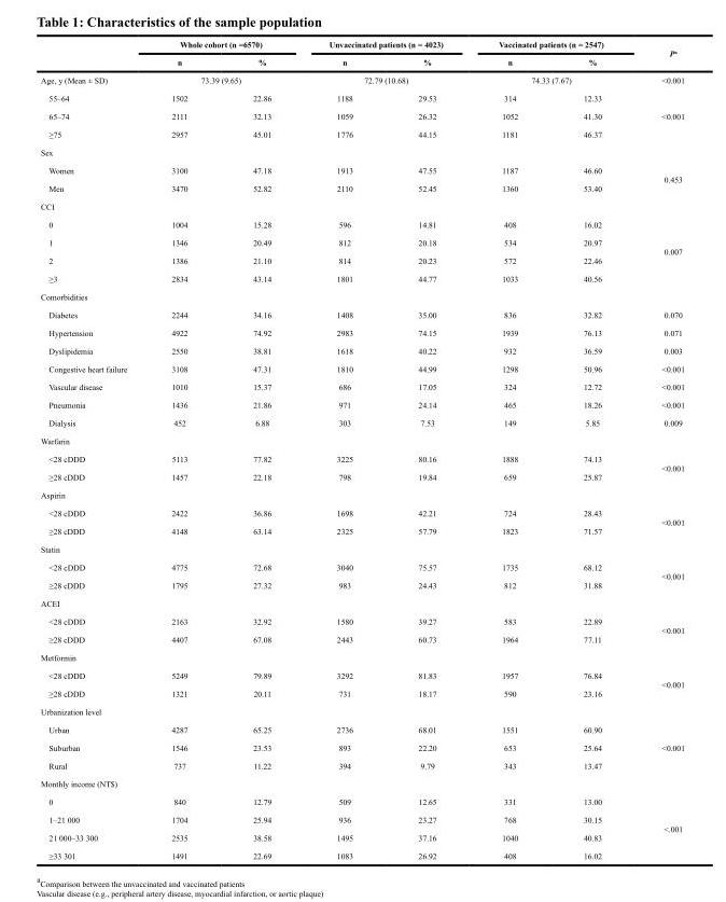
<table><thead><tr><td rowspan="2"></td><td colspan="2">Whole cohort (n =6570)</td><td colspan="2">Unvaccinated patients (n = 4023)</td><td colspan="2">Vaccinated patients (n = 2547)</td><td rowspan="2">P<sup>a</sup></td></tr><tr><td>n</td><td>%</td><td>n</td><td>%</td><td>n</td><td>%</td></tr></thead><tbody><tr><td>Age, y (Mean ± SD)</td><td colspan="2">73.39 (9.65)</td><td colspan="2">72.79 (10.68)</td><td colspan="2">74.33 (7.67)</td><td>&lt;0.001</td></tr><tr><td>55–64</td><td>1502</td><td>22.86</td><td>1188</td><td>29.53</td><td>314</td><td>12.33</td><td rowspan="3">&lt;0.001</td></tr><tr><td>65–74</td><td>2111</td><td>32.13</td><td>1059</td><td>26.32</td><td>1052</td><td>41.30</td></tr><tr><td>≥75</td><td>2957</td><td>45.01</td><td>1776</td><td>44.15</td><td>1181</td><td>46.37</td></tr><tr><td colspan="8">Sex</td></tr><tr><td>Women</td><td>3100</td><td>47.18</td><td>1913</td><td>47.55</td><td>1187</td><td>46.60</td><td rowspan="2">0.453</td></tr><tr><td>Men</td><td>3470</td><td>52.82</td><td>2110</td><td>52.45</td><td>1360</td><td>53.40</td></tr><tr><td colspan="8">CCI</td></tr><tr><td>0</td><td>1004</td><td>15.28</td><td>596</td><td>14.81</td><td>408</td><td>16.02</td><td rowspan="4">0.007</td></tr><tr><td>1</td><td>1346</td><td>20.49</td><td>812</td><td>20.18</td><td>534</td><td>20.97</td></tr><tr><td>2</td><td>1386</td><td>21.10</td><td>814</td><td>20.23</td><td>572</td><td>22.46</td></tr><tr><td>≥3</td><td>2834</td><td>43.14</td><td>1801</td><td>44.77</td><td>1033</td><td>40.56</td></tr><tr><td colspan="8">Comorbidities</td></tr><tr><td>Diabetes</td><td>2244</td><td>34.16</td><td>1408</td><td>35.00</td><td>836</td><td>32.82</td><td>0.070</td></tr><tr><td>Hypertension</td><td>4922</td><td>74.92</td><td>2983</td><td>74.15</td><td>1939</td><td>76.13</td><td>0.071</td></tr><tr><td>Dyslipidemia</td><td>2550</td><td>38.81</td><td>1618</td><td>40.22</td><td>932</td><td>36.59</td><td>0.003</td></tr><tr><td>Congestive heart failure</td><td>3108</td><td>47.31</td><td>1810</td><td>44.99</td><td>1298</td><td>50.96</td><td>&lt;0.001</td></tr><tr><td>Vascular disease</td><td>1010</td><td>15.37</td><td>686</td><td>17.05</td><td>324</td><td>12.72</td><td>&lt;0.001</td></tr><tr><td>Pneumonia</td><td>1436</td><td>21.86</td><td>971</td><td>24.14</td><td>465</td><td>18.26</td><td>&lt;0.001</td></tr><tr><td>Dialysis</td><td>452</td><td>6.88</td><td>303</td><td>7.53</td><td>149</td><td>5.85</td><td>0.009</td></tr><tr><td colspan="8">Warfarin</td></tr><tr><td>&lt;28 cDDD</td><td>5113</td><td>77.82</td><td>3225</td><td>80.16</td><td>1888</td><td>74.13</td><td rowspan="2">&lt;0.001</td></tr><tr><td>≥28 cDDD</td><td>1457</td><td>22.18</td><td>798</td><td>19.84</td><td>659</td><td>25.87</td></tr><tr><td colspan="8">Aspirin</td></tr><tr><td>&lt;28 cDDD</td><td>2422</td><td>36.86</td><td>1698</td><td>42.21</td><td>724</td><td>28.43</td><td rowspan="2">&lt;0.001</td></tr><tr><td>≥28 cDDD</td><td>4148</td><td>63.14</td><td>2325</td><td>57.79</td><td>1823</td><td>71.57</td></tr><tr><td colspan="8">Statin</td></tr><tr><td>&lt;28 cDDD</td><td>4775</td><td>72.68</td><td>3040</td><td>75.57</td><td>1735</td><td>68.12</td><td rowspan="2">&lt;0.001</td></tr><tr><td>≥28 cDDD</td><td>1795</td><td>27.32</td><td>983</td><td>24.43</td><td>812</td><td>31.88</td></tr><tr><td colspan="8">ACEI</td></tr><tr><td>&lt;28 cDDD</td><td>2163</td><td>32.92</td><td>1580</td><td>39.27</td><td>583</td><td>22.89</td><td rowspan="2">&lt;0.001</td></tr><tr><td>≥28 cDDD</td><td>4407</td><td>67.08</td><td>2443</td><td>60.73</td><td>1964</td><td>77.11</td></tr><tr><td colspan="8">Metformin</td></tr><tr><td>&lt;28 cDDD</td><td>5249</td><td>79.89</td><td>3292</td><td>81.83</td><td>1957</td><td>76.84</td><td rowspan="2">&lt;0.001</td></tr><tr><td>≥28 cDDD</td><td>1321</td><td>20.11</td><td>731</td><td>18.17</td><td>590</td><td>23.16</td></tr><tr><td colspan="8">Urbanization level</td></tr><tr><td>Urban</td><td>4287</td><td>65.25</td><td>2736</td><td>68.01</td><td>1551</td><td>60.90</td><td rowspan="3">&lt;0.001</td></tr><tr><td>Suburban</td><td>1546</td><td>23.53</td><td>893</td><td>22.20</td><td>653</td><td>25.64</td></tr><tr><td>Rural</td><td>737</td><td>11.22</td><td>394</td><td>9.79</td><td>343</td><td>13.47</td></tr><tr><td colspan="8">Monthly income (NT$)</td></tr><tr><td>0</td><td>840</td><td>12.79</td><td>509</td><td>12.65</td><td>331</td><td>13.00</td><td rowspan="4">&lt;.001</td></tr><tr><td>1–21 000</td><td>1704</td><td>25.94</td><td>936</td><td>23.27</td><td>768</td><td>30.15</td></tr><tr><td>21 000–33 300</td><td>2535</td><td>38.58</td><td>1495</td><td>37.16</td><td>1040</td><td>40.83</td></tr><tr><td>≥33 301</td><td>1491</td><td>22.69</td><td>1083</td><td>26.92</td><td>408</td><td>16.02</td></tr></tbody></table>